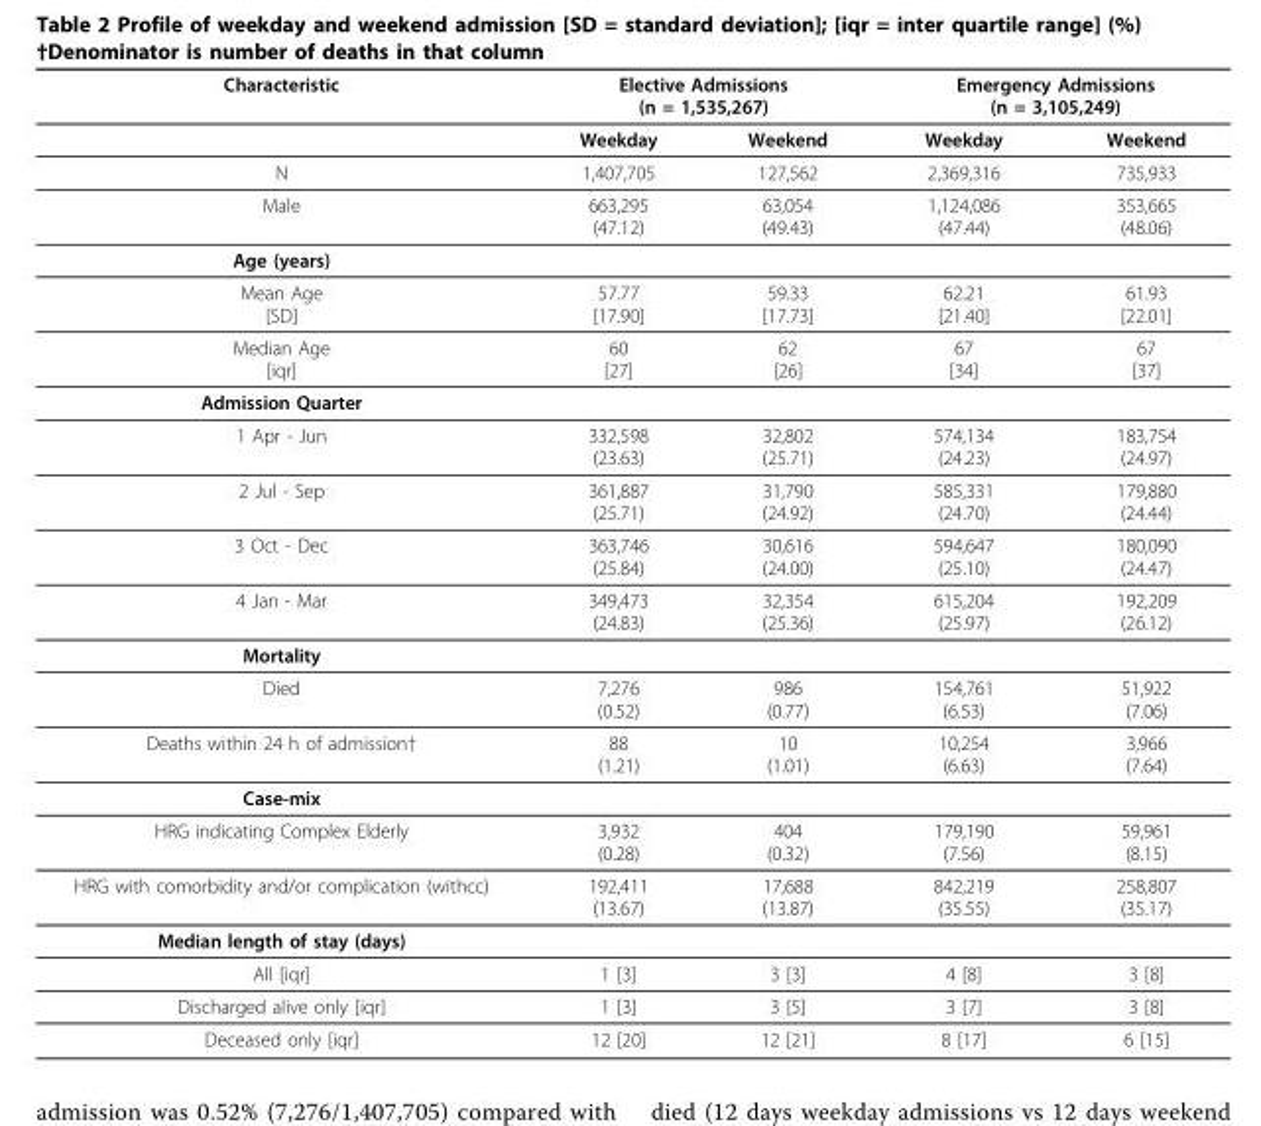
<table><thead><tr><td rowspan="2">Characteristic</td><td colspan="2">Elective Admissions (n = 1,535,267)</td><td colspan="2">Emergency Admissions (n = 3,105,249)</td></tr><tr><td>Weekday</td><td>Weekend</td><td>Weekday</td><td>Weekend</td></tr></thead><tbody><tr><td>N</td><td>1,407,705</td><td>127,562</td><td>2,369,316</td><td>735,933</td></tr><tr><td>Male</td><td>663,295 (47.12)</td><td>63,054 (49.43)</td><td>1,124,086 (47.44)</td><td>353,665 (48.06)</td></tr><tr><td colspan="5">Age (years)</td></tr><tr><td>Mean Age [SD]</td><td>57.77 [17.90]</td><td>59.33 [17.73]</td><td>62.21 [21.40]</td><td>61.93 [22.01]</td></tr><tr><td>Median Age [iqr]</td><td>60 [27]</td><td>62 [26]</td><td>67 [34]</td><td>67 [37]</td></tr><tr><td colspan="5">Admission Quarter</td></tr><tr><td>1 Apr - Jun</td><td>332,598 (23.63)</td><td>32,802 (25.71)</td><td>574,134 (24.23)</td><td>183,754 (24.97)</td></tr><tr><td>2 Jul - Sep</td><td>361,887 (25.71)</td><td>31,790 (24.92)</td><td>585,331 (24.70)</td><td>179,880 (24.44)</td></tr><tr><td>3 Oct - Dec</td><td>363,746 (25.84)</td><td>30,616 (24.00)</td><td>594,647 (25.10)</td><td>180,090 (24.47)</td></tr><tr><td>4 Jan - Mar</td><td>349,473 (24.83)</td><td>32,354 (25.36)</td><td>615,204 (25.97)</td><td>192,209 (26.12)</td></tr><tr><td colspan="5">Mortality</td></tr><tr><td>Died</td><td>7,276 (0.52)</td><td>986 (0.77)</td><td>154,761 (6.53)</td><td>51,922 (7.06)</td></tr><tr><td>Deaths within 24 h of admission†</td><td>88 (1.21)</td><td>10 (1.01)</td><td>10,254 (6.63)</td><td>3,966 (7.64)</td></tr><tr><td colspan="5">Case-mix</td></tr><tr><td>HRG indicating Complex Elderly</td><td>3,932 (0.28)</td><td>404 (0.32)</td><td>179,190 (7.56)</td><td>59,961 (8.15)</td></tr><tr><td>HRG with comorbidity and/or complication (withcc)</td><td>192,411 (13.67)</td><td>17,688 (13.87)</td><td>842,219 (35.55)</td><td>258,807 (35.17)</td></tr><tr><td colspan="5">Median length of stay (days)</td></tr><tr><td>All [iqr]</td><td>1 [3]</td><td>3 [3]</td><td>4 [8]</td><td>3 [8]</td></tr><tr><td>Discharged alive only [iqr]</td><td>1 [3]</td><td>3 [5]</td><td>3 [7]</td><td>3 [8]</td></tr><tr><td>Deceased only [iqr]</td><td>12 [20]</td><td>12 [21]</td><td>8 [17]</td><td>6 [15]</td></tr></tbody></table>